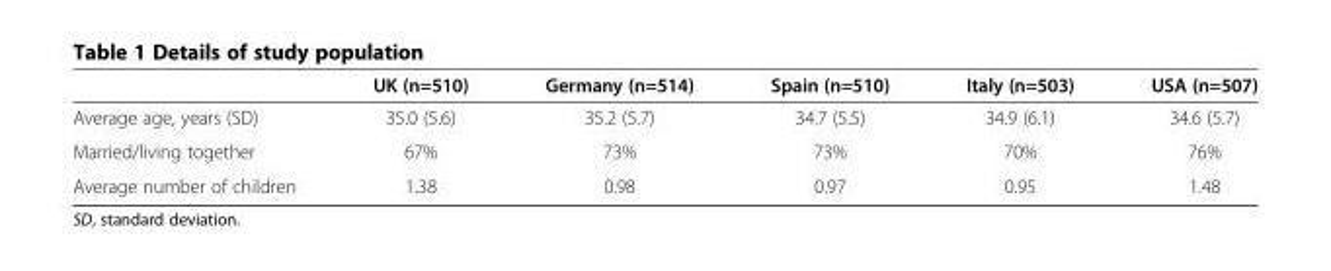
<table><thead><tr><td></td><td>UK (n=510)</td><td>Germany (n=514)</td><td>Spain (n=510)</td><td>Italy (n=503)</td><td>USA (n=507)</td></tr></thead><tbody><tr><td>Average age, years (SD)</td><td>35.0 (5.6)</td><td>35.2 (5.7)</td><td>34.7 (5.5)</td><td>34.9 (6.1)</td><td>34.6 (5.7)</td></tr><tr><td>Married/living together</td><td>67%</td><td>73%</td><td>73%</td><td>70%</td><td>76%</td></tr><tr><td>Average number of children</td><td>1.38</td><td>0.98</td><td>0.97</td><td>0.95</td><td>1.48</td></tr></tbody></table>